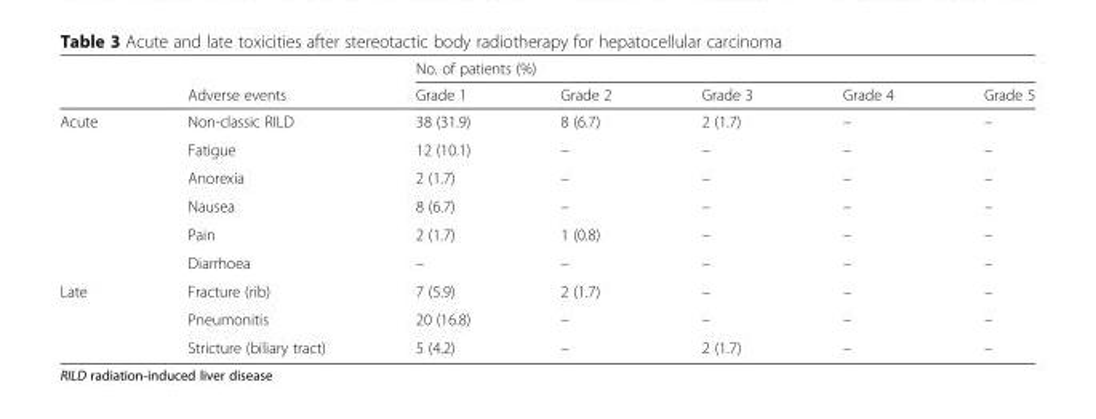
<table><thead><tr><td rowspan="2"></td><td rowspan="2">Adverse events</td><td colspan="5">No. of patients (%)</td></tr><tr><td>Grade 1</td><td>Grade 2</td><td>Grade 3</td><td>Grade 4</td><td>Grade 5</td></tr></thead><tbody><tr><td rowspan="6">Acute</td><td>Non-classic RILD</td><td>38 (31.9)</td><td>8 (6.7)</td><td>2 (1.7)</td><td>–</td><td>–</td></tr><tr><td>Fatigue</td><td>12 (10.1)</td><td>–</td><td>–</td><td>–</td><td>–</td></tr><tr><td>Anorexia</td><td>2 (1.7)</td><td>–</td><td>–</td><td>–</td><td>–</td></tr><tr><td>Nausea</td><td>8 (6.7)</td><td>–</td><td>–</td><td>–</td><td>–</td></tr><tr><td>Pain</td><td>2 (1.7)</td><td>1 (0.8)</td><td>–</td><td>–</td><td>–</td></tr><tr><td>Diarrhoea</td><td>–</td><td>–</td><td>–</td><td>–</td><td>–</td></tr><tr><td rowspan="3">Late</td><td>Fracture (rib)</td><td>7 (5.9)</td><td>2 (1.7)</td><td>–</td><td>–</td><td>–</td></tr><tr><td>Pneumonitis</td><td>20 (16.8)</td><td>–</td><td>–</td><td>–</td><td>–</td></tr><tr><td>Stricture (biliary tract)</td><td>5 (4.2)</td><td>–</td><td>2 (1.7)</td><td>–</td><td>–</td></tr></tbody></table>